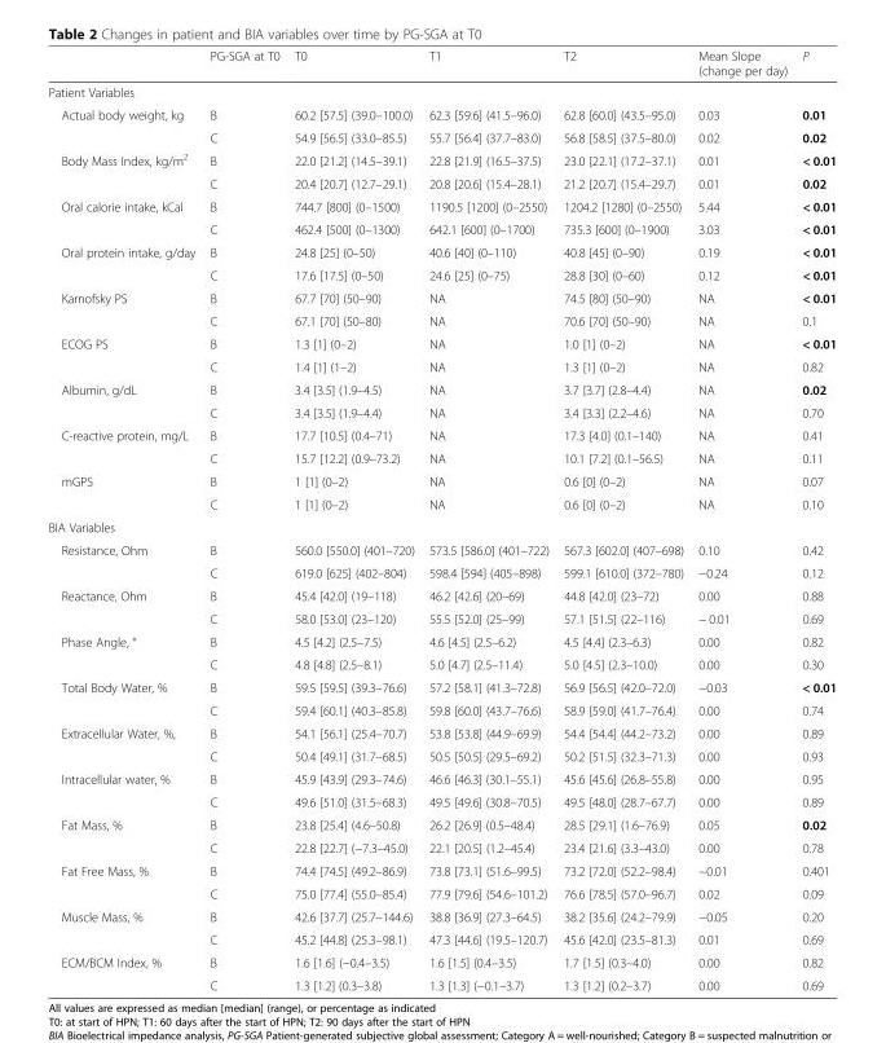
<table><thead><tr><td></td><td>PG-SGA at T0</td><td>T0</td><td>T1</td><td>T2</td><td>Mean Slope (change per day)</td><td>P</td></tr></thead><tbody><tr><td colspan="7">Patient Variables</td></tr><tr><td rowspan="2">Actual body weight, kg</td><td>B</td><td>60.2 [57.5] (39.0–100.0)</td><td>62.3 [59.6] (41.5–96.0)</td><td>62.8 [60.0] (43.5–95.0)</td><td>0.03</td><td>0.01</td></tr><tr><td>C</td><td>54.9 [56.5] (33.0–85.5)</td><td>55.7 [56.4] (37.7–83.0)</td><td>56.8 [58.5] (37.5–80.0)</td><td>0.02</td><td>0.02</td></tr><tr><td rowspan="2">Body Mass Index, kg/m<sup>2</sup></td><td>B</td><td>22.0 [21.2] (14.5–39.1)</td><td>22.8 [21.9] (16.5–37.5)</td><td>23.0 [22.1] (17.2–37.1)</td><td>0.01</td><td>&lt; 0.01</td></tr><tr><td>C</td><td>20.4 [20.7] (12.7–29.1)</td><td>20.8 [20.6] (15.4–28.1)</td><td>21.2 [20.7] (15.4–29.7)</td><td>0.01</td><td>0.02</td></tr><tr><td rowspan="2">Oral calorie intake, kCal</td><td>B</td><td>744.7 [800] (0–1500)</td><td>1190.5 [1200] (0–2550)</td><td>1204.2 [1280] (0–2550)</td><td>5.44</td><td>&lt; 0.01</td></tr><tr><td>C</td><td>462.4 [500] (0–1300)</td><td>642.1 [600] (0–1700)</td><td>735.3 [600] (0–1900)</td><td>3.03</td><td>&lt; 0.01</td></tr><tr><td rowspan="2">Oral protein intake, g/day</td><td>B</td><td>24.8 [25] (0–50)</td><td>40.6 [40] (0–110)</td><td>40.8 [45] (0–90)</td><td>0.19</td><td>&lt; 0.01</td></tr><tr><td>C</td><td>17.6 [17.5] (0–50)</td><td>24.6 [25] (0–75)</td><td>28.8 [30] (0–60)</td><td>0.12</td><td>&lt; 0.01</td></tr><tr><td rowspan="2">Karnofsky PS</td><td>B</td><td>67.7 [70] (50–90)</td><td>NA</td><td>74.5 [80] (50–90)</td><td>NA</td><td>&lt; 0.01</td></tr><tr><td>C</td><td>67.1 [70] (50–80)</td><td>NA</td><td>70.6 [70] (50–90)</td><td>NA</td><td>0.1</td></tr><tr><td rowspan="2">ECOG PS</td><td>B</td><td>1.3 [1] (0–2)</td><td>NA</td><td>1.0 [1] (0–2)</td><td>NA</td><td>&lt; 0.01</td></tr><tr><td>C</td><td>1.4 [1] (1–2)</td><td>NA</td><td>1.3 [1] (0–2)</td><td>NA</td><td>0.82</td></tr><tr><td rowspan="2">Albumin, g/dL</td><td>B</td><td>3.4 [3.5] (1.9–4.5)</td><td>NA</td><td>3.7 [3.7] (2.8–4.4)</td><td>NA</td><td>0.02</td></tr><tr><td>C</td><td>3.4 [3.5] (1.9–4.4)</td><td>NA</td><td>3.4 [3.3] (2.2–4.6)</td><td>NA</td><td>0.70</td></tr><tr><td rowspan="2">C-reactive protein, mg/L</td><td>B</td><td>17.7 [10.5] (0.4–71)</td><td>NA</td><td>17.3 [4.0] (0.1–140)</td><td>NA</td><td>0.41</td></tr><tr><td>C</td><td>15.7 [12.2] (0.9–73.2)</td><td>NA</td><td>10.1 [7.2] (0.1–56.5)</td><td>NA</td><td>0.11</td></tr><tr><td rowspan="2">mGPS</td><td>B</td><td>1 [1] (0–2)</td><td>NA</td><td>0.6 [0] (0–2)</td><td>NA</td><td>0.07</td></tr><tr><td>C</td><td>1 [1] (0–2)</td><td>NA</td><td>0.6 [0] (0–2)</td><td>NA</td><td>0.10</td></tr><tr><td colspan="7">BIA Variables</td></tr><tr><td rowspan="2">Resistance, Ohm</td><td>B</td><td>560.0 [550.0] (401–720)</td><td>573.5 [586.0] (401–722)</td><td>567.3 [602.0] (407–698)</td><td>0.10</td><td>0.42</td></tr><tr><td>C</td><td>619.0 [625] (402–804)</td><td>598.4 [594] (405–898)</td><td>599.1 [610.0] (372–780)</td><td>−0.24</td><td>0.12</td></tr><tr><td rowspan="2">Reactance, Ohm</td><td>B</td><td>45.4 [42.0] (19–118)</td><td>46.2 [42.6] (20–69)</td><td>44.8 [42.0] (23–72)</td><td>0.00</td><td>0.88</td></tr><tr><td>C</td><td>58.0 [53.0] (23–120)</td><td>55.5 [52.0] (25–99)</td><td>57.1 [51.5] (22–116)</td><td>− 0.01</td><td>0.69</td></tr><tr><td rowspan="2">Phase Angle, °</td><td>B</td><td>4.5 [4.2] (2.5–7.5)</td><td>4.6 [4.5] (2.5–6.2)</td><td>4.5 [4.4] (2.3–6.3)</td><td>0.00</td><td>0.82</td></tr><tr><td>C</td><td>4.8 [4.8] (2.5–8.1)</td><td>5.0 [4.7] (2.5–11.4)</td><td>5.0 [4.5] (2.3–10.0)</td><td>0.00</td><td>0.30</td></tr><tr><td rowspan="2">Total Body Water, %</td><td>B</td><td>59.5 [59.5] (39.3–76.6)</td><td>57.2 [58.1] (41.3–72.8)</td><td>56.9 [56.5] (42.0–72.0)</td><td>−0.03</td><td>&lt; 0.01</td></tr><tr><td>C</td><td>59.4 [60.1] (40.3–85.8)</td><td>59.8 [60.0] (43.7–76.6)</td><td>58.9 [59.0] (41.7–76.4)</td><td>0.00</td><td>0.74</td></tr><tr><td rowspan="2">Extracellular Water, %,</td><td>B</td><td>54.1 [56.1] (25.4–70.7)</td><td>53.8 [53.8] (44.9–69.9)</td><td>54.4 [54.4] (44.2–73.2)</td><td>0.00</td><td>0.89</td></tr><tr><td>C</td><td>50.4 [49.1] (31.7–68.5)</td><td>50.5 [50.5] (29.5–69.2)</td><td>50.2 [51.5] (32.3–71.3)</td><td>0.00</td><td>0.93</td></tr><tr><td rowspan="2">Intracellular water, %</td><td>B</td><td>45.9 [43.9] (29.3–74.6)</td><td>46.6 [46.3] (30.1–55.1)</td><td>45.6 [45.6] (26.8–55.8)</td><td>0.00</td><td>0.95</td></tr><tr><td>C</td><td>49.6 [51.0] (31.5–68.3)</td><td>49.5 [49.6] (30.8–70.5)</td><td>49.5 [48.0] (28.7–67.7)</td><td>0.00</td><td>0.89</td></tr><tr><td rowspan="2">Fat Mass, %</td><td>B</td><td>23.8 [25.4] (4.6–50.8)</td><td>26.2 [26.9] (0.5–48.4)</td><td>28.5 [29.1] (1.6–76.9)</td><td>0.05</td><td>0.02</td></tr><tr><td>C</td><td>22.8 [22.7] (−7.3–45.0)</td><td>22.1 [20.5] (1.2–45.4)</td><td>23.4 [21.6] (3.3–43.0)</td><td>0.00</td><td>0.78</td></tr><tr><td rowspan="2">Fat Free Mass, %</td><td>B</td><td>74.4 [74.5] (49.2–86.9)</td><td>73.8 [73.1] (51.6–99.5)</td><td>73.2 [72.0] (52.2–98.4)</td><td>−0.01</td><td>0.401</td></tr><tr><td>C</td><td>75.0 [77.4] (55.0–85.4)</td><td>77.9 [79.6] (54.6–101.2)</td><td>76.6 [78.5] (57.0–96.7)</td><td>0.02</td><td>0.09</td></tr><tr><td rowspan="2">Muscle Mass, %</td><td>B</td><td>42.6 [37.7] (25.7–144.6)</td><td>38.8 [36.9] (27.3–64.5)</td><td>38.2 [35.6] (24.2–79.9)</td><td>−0.05</td><td>0.20</td></tr><tr><td>C</td><td>45.2 [44.8] (25.3–98.1)</td><td>47.3 [44.6] (19.5–120.7)</td><td>45.6 [42.0] (23.5–81.3)</td><td>0.01</td><td>0.69</td></tr><tr><td rowspan="2">ECM/BCM Index, %</td><td>B</td><td>1.6 [1.6] (−0.4–3.5)</td><td>1.6 [1.5] (0.4–3.5)</td><td>1.7 [1.5] (0.3–4.0)</td><td>0.00</td><td>0.82</td></tr><tr><td>C</td><td>1.3 [1.2] (0.3–3.8)</td><td>1.3 [1.3] (−0.1–3.7)</td><td>1.3 [1.2] (0.2–3.7)</td><td>0.00</td><td>0.69</td></tr></tbody></table>